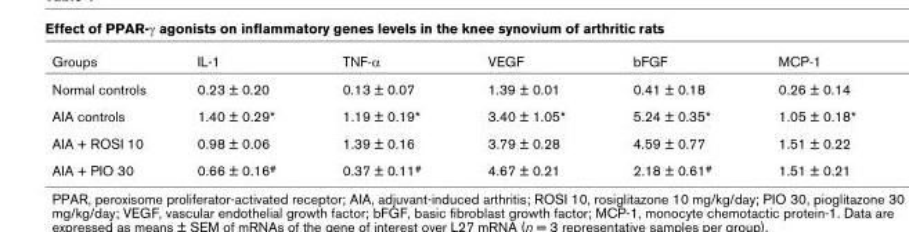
<table><thead><tr><td>Groups</td><td>IL-1</td><td>TNF-α</td><td>VEGF</td><td>bFGF</td><td>MCP-1</td></tr></thead><tbody><tr><td>Normal controls</td><td>0.23 ± 0.20</td><td>0.13 ± 0.07</td><td>1.39 ± 0.01</td><td>0.41 ± 0.18</td><td>0.26 ± 0.14</td></tr><tr><td>AIA controls</td><td>1.40 ± 0.29*</td><td>1.19 ± 0.19*</td><td>3.40 ± 1.05*</td><td>5.24 ± 0.35*</td><td>1.05 ± 0.18*</td></tr><tr><td>AIA + ROSI 10</td><td>0.98 ± 0.06</td><td>1.39 ± 0.16</td><td>3.79 ± 0.28</td><td>4.59 ± 0.77</td><td>1.51 ± 0.22</td></tr><tr><td>AIA + PIO 30</td><td>0.66 ± 0.16<sup>#</sup></td><td>0.37 ± 0.11<sup>#</sup></td><td>4.67 ± 0.21</td><td>2.18 ± 0.61<sup>#</sup></td><td>1.51 ± 0.21</td></tr></tbody></table>